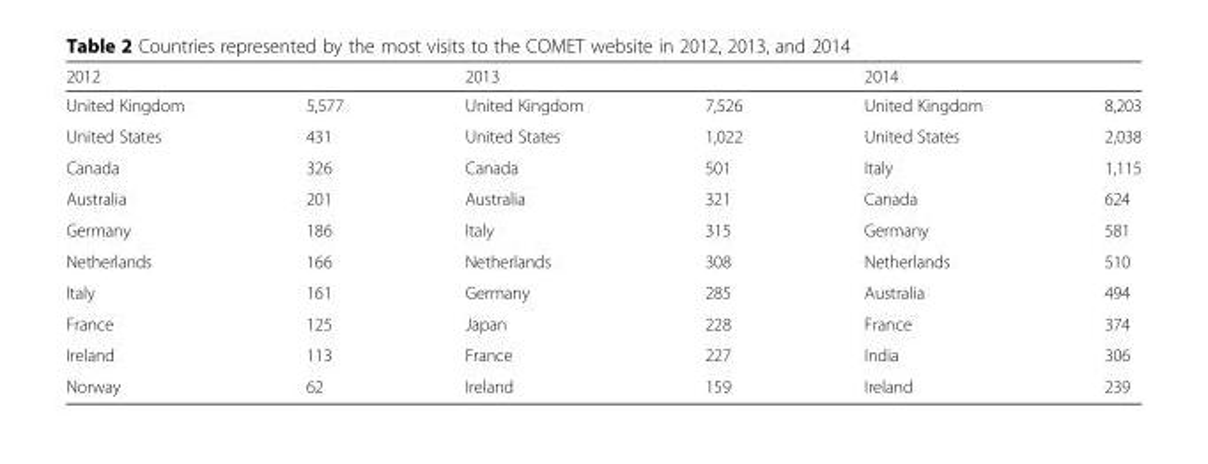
<table><thead><tr><td colspan="2">2012</td><td colspan="2">2013</td><td colspan="2">2014</td></tr><tr><td>United Kingdom</td><td>5,577</td><td>United Kingdom</td><td>7,526</td><td>United Kingdom</td><td>8,203</td></tr></thead><tbody><tr><td>United States</td><td>431</td><td>United States</td><td>1,022</td><td>United States</td><td>2,038</td></tr><tr><td>Canada</td><td>326</td><td>Canada</td><td>501</td><td>Italy</td><td>1,115</td></tr><tr><td>Australia</td><td>201</td><td>Australia</td><td>321</td><td>Canada</td><td>624</td></tr><tr><td>Germany</td><td>186</td><td>Italy</td><td>315</td><td>Germany</td><td>581</td></tr><tr><td>Netherlands</td><td>166</td><td>Netherlands</td><td>308</td><td>Netherlands</td><td>510</td></tr><tr><td>Italy</td><td>161</td><td>Germany</td><td>285</td><td>Australia</td><td>494</td></tr><tr><td>France</td><td>125</td><td>Japan</td><td>228</td><td>France</td><td>374</td></tr><tr><td>Ireland</td><td>113</td><td>France</td><td>227</td><td>India</td><td>306</td></tr><tr><td>Norway</td><td>62</td><td>Ireland</td><td>159</td><td>Ireland</td><td>239</td></tr></tbody></table>